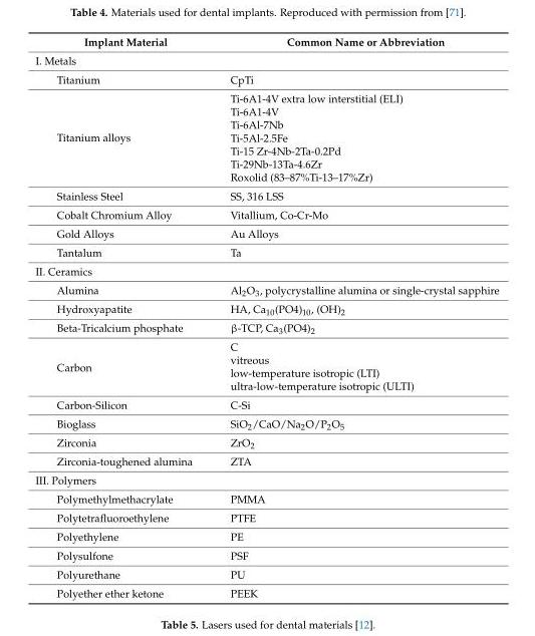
<table><thead><tr><td>Implant Material</td><td>Common Name or Abbreviation</td></tr></thead><tbody><tr><td colspan="2">I. Metals</td></tr><tr><td>Titanium</td><td>CpTi</td></tr><tr><td rowspan="7">Titanium alloys</td><td>Ti-6A1-4V extra low interstitial (ELI)</td></tr><tr><td>Ti-6A1-4V</td></tr><tr><td>Ti-6Al-7Nb</td></tr><tr><td>Ti-5Al-2.5Fe</td></tr><tr><td>Ti-15 Zr-4Nb-2Ta-0.2Pd</td></tr><tr><td>Ti-29Nb-13Ta-4.6Zr</td></tr><tr><td>Roxolid (83–87%Ti-13–17%Zr)</td></tr><tr><td>Stainless Steel</td><td>SS, 316 LSS</td></tr><tr><td>Cobalt Chromium Alloy</td><td>Vitallium, Co-Cr-Mo</td></tr><tr><td>Gold Alloys</td><td>Au Alloys</td></tr><tr><td>Tantalum</td><td>Ta</td></tr><tr><td colspan="2">II. Ceramics</td></tr><tr><td>Alumina</td><td>Al<sub>2</sub>O<sub>3</sub>, polycrystalline alumina or single-crystal sapphire</td></tr><tr><td>Hydroxyapatite</td><td>HA, Ca<sub>10</sub>(PO4)<sub>10</sub>, (OH)<sub>2</sub></td></tr><tr><td>Beta-Tricalcium phosphate</td><td>β-TCP, Ca<sub>3</sub>(PO4)<sub>2</sub></td></tr><tr><td rowspan="4">Carbon</td><td>C</td></tr><tr><td>vitreous</td></tr><tr><td>low-temperature isotropic (LTI)</td></tr><tr><td>ultra-low-temperature isotropic (ULTI)</td></tr><tr><td>Carbon-Silicon</td><td>C-Si</td></tr><tr><td>Bioglass</td><td>SiO<sub>2</sub>/CaO/Na<sub>2</sub>O/P<sub>2</sub>O<sub>5</sub></td></tr><tr><td>Zirconia</td><td>ZrO<sub>2</sub></td></tr><tr><td>Zirconia-toughened alumina</td><td>ZTA</td></tr><tr><td colspan="2">III. Polymers</td></tr><tr><td>Polymethylmethacrylate</td><td>PMMA</td></tr><tr><td>Polytetrafluoroethylene</td><td>PTFE</td></tr><tr><td>Polyethylene</td><td>PE</td></tr><tr><td>Polysulfone</td><td>PSF</td></tr><tr><td>Polyurethane</td><td>PU</td></tr><tr><td>Polyether ether ketone</td><td>PEEK</td></tr></tbody></table>